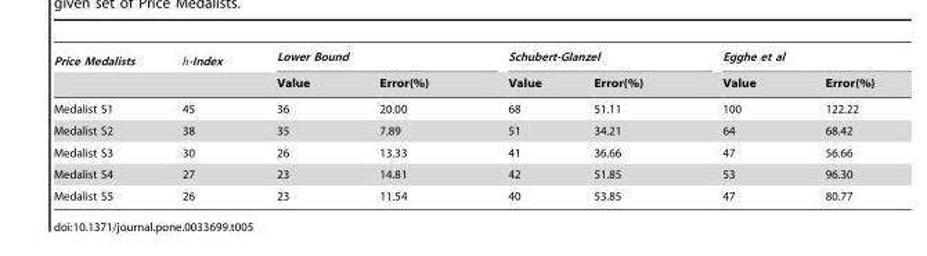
<table><thead><tr><td rowspan="2">Price Medalists</td><td rowspan="2">h-Index</td><td colspan="2">Lower Bound</td><td colspan="2">Schubert-Glanzel</td><td colspan="2">Egghe et al</td></tr><tr><td>Value</td><td>Error(%)</td><td>Value</td><td>Error(%)</td><td>Value</td><td>Error(%)</td></tr></thead><tbody><tr><td>Medalist S1</td><td>45</td><td>36</td><td>20.00</td><td>68</td><td>51.11</td><td>100</td><td>122.22</td></tr><tr><td>Medalist S2</td><td>38</td><td>35</td><td>7.89</td><td>51</td><td>34.21</td><td>64</td><td>68.42</td></tr><tr><td>Medalist S3</td><td>30</td><td>26</td><td>13.33</td><td>41</td><td>36.66</td><td>47</td><td>56.66</td></tr><tr><td>Medalist S4</td><td>27</td><td>23</td><td>14.81</td><td>42</td><td>51.85</td><td>53</td><td>96.30</td></tr><tr><td>Medalist S5</td><td>26</td><td>23</td><td>11.54</td><td>40</td><td>53.85</td><td>47</td><td>80.77</td></tr></tbody></table>